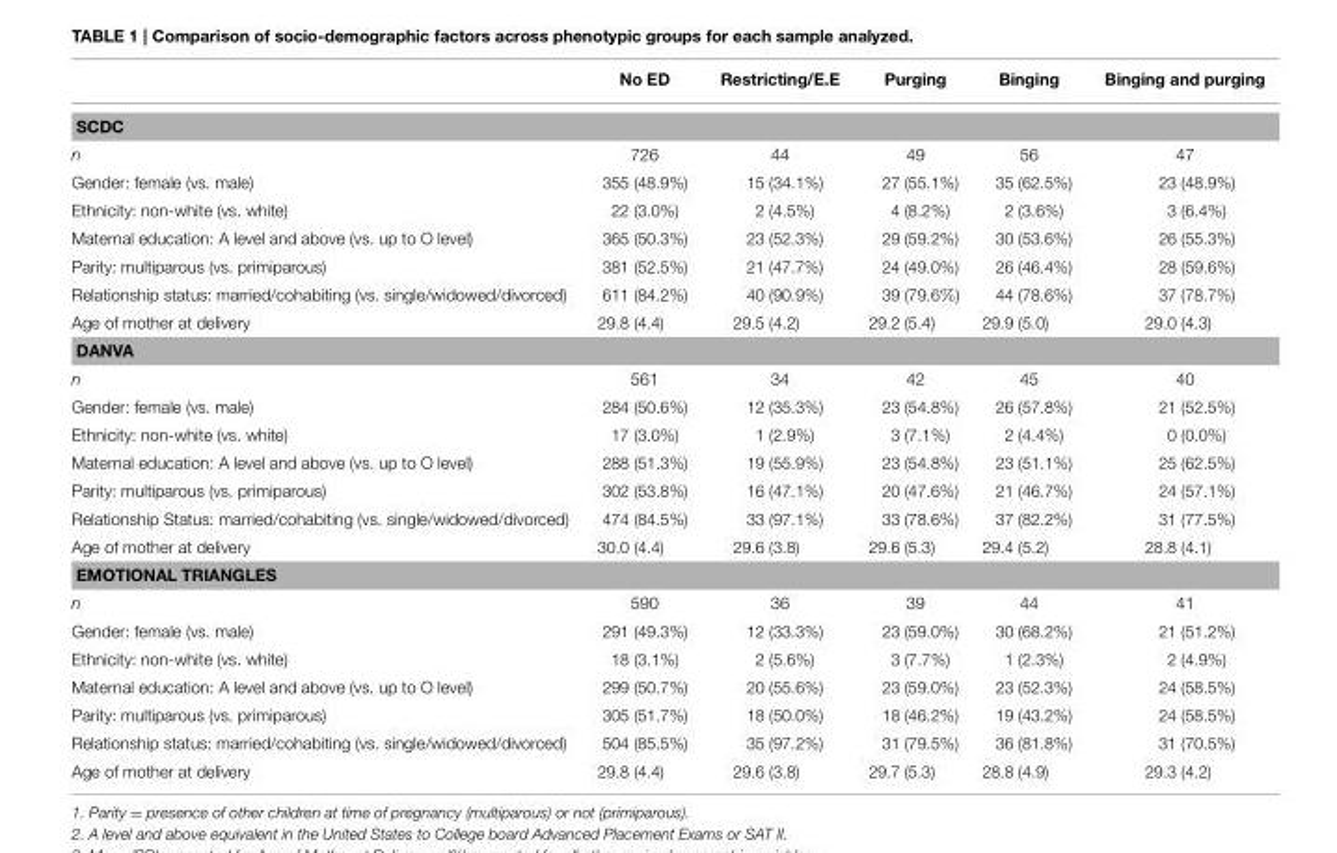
<table><thead><tr><td></td><td>No ED</td><td>Restricting/E.E</td><td>Purging</td><td>Binging</td><td>Binging and purging</td></tr></thead><tbody><tr><td colspan="6">SCDC</td></tr><tr><td>n</td><td>726</td><td>44</td><td>49</td><td>56</td><td>47</td></tr><tr><td>Gender: female (vs. male)</td><td>355 (48.9%)</td><td>15 (34.1%)</td><td>27 (55.1%)</td><td>35 (62.5%)</td><td>23 (48.9%)</td></tr><tr><td>Ethnicity: non-white (vs. white)</td><td>22 (3.0%)</td><td>2 (4.5%)</td><td>4 (8.2%)</td><td>2 (3.6%)</td><td>3 (6.4%)</td></tr><tr><td>Maternal education: A level and above (vs. up to O level)</td><td>365 (50.3%)</td><td>23 (52.3%)</td><td>29 (59.2%)</td><td>30 (53.6%)</td><td>26 (55.3%)</td></tr><tr><td>Parity: multiparous (vs. primiparous)</td><td>381 (52.5%)</td><td>21 (47.7%)</td><td>24 (49.0%)</td><td>26 (46.4%)</td><td>28 (59.6%)</td></tr><tr><td>Relationship status: married/cohabiting (vs. single/widowed/divorced)</td><td>611 (84.2%)</td><td>40 (90.9%)</td><td>39 (79.6%)</td><td>44 (78.6%)</td><td>37 (78.7%)</td></tr><tr><td>Age of mother at delivery</td><td>29.8 (4.4)</td><td>29.5 (4.2)</td><td>29.2 (5.4)</td><td>29.9 (5.0)</td><td>29.0 (4.3)</td></tr><tr><td colspan="6">DANVA</td></tr><tr><td>n</td><td>561</td><td>34</td><td>42</td><td>45</td><td>40</td></tr><tr><td>Gender: female (vs. male)</td><td>284 (50.6%)</td><td>12 (35.3%)</td><td>23 (54.8%)</td><td>26 (57.8%)</td><td>21 (52.5%)</td></tr><tr><td>Ethnicity: non-white (vs. white)</td><td>17 (3.0%)</td><td>1 (2.9%)</td><td>3 (7.1%)</td><td>2 (4.4%)</td><td>0 (0.0%)</td></tr><tr><td>Maternal education: A level and above (vs. up to O level)</td><td>288 (51.3%)</td><td>19 (55.9%)</td><td>23 (54.8%)</td><td>23 (51.1%)</td><td>25 (62.5%)</td></tr><tr><td>Parity: multiparous (vs. primiparous)</td><td>302 (53.8%)</td><td>16 (47.1%)</td><td>20 (47.6%)</td><td>21 (46.7%)</td><td>24 (57.1%)</td></tr><tr><td>Relationship Status: married/cohabiting (vs. single/widowed/divorced)</td><td>474 (84.5%)</td><td>33 (97.1%)</td><td>33 (78.6%)</td><td>37 (82.2%)</td><td>31 (77.5%)</td></tr><tr><td>Age of mother at delivery</td><td>30.0 (4.4)</td><td>29.6 (3.8)</td><td>29.6 (5.3)</td><td>29.4 (5.2)</td><td>28.8 (4.1)</td></tr><tr><td colspan="6">EMOTIONAL TRIANGLES</td></tr><tr><td>n</td><td>590</td><td>36</td><td>39</td><td>44</td><td>41</td></tr><tr><td>Gender: female (vs. male)</td><td>291 (49.3%)</td><td>12 (33.3%)</td><td>23 (59.0%)</td><td>30 (68.2%)</td><td>21 (51.2%)</td></tr><tr><td>Ethnicity: non-white (vs. white)</td><td>18 (3.1%)</td><td>2 (5.6%)</td><td>3 (7.7%)</td><td>1 (2.3%)</td><td>2 (4.9%)</td></tr><tr><td>Maternal education: A level and above (vs. up to O level)</td><td>299 (50.7%)</td><td>20 (55.6%)</td><td>23 (59.0%)</td><td>23 (52.3%)</td><td>24 (58.5%)</td></tr><tr><td>Parity: multiparous (vs. primiparous)</td><td>305 (51.7%)</td><td>18 (50.0%)</td><td>18 (46.2%)</td><td>19 (43.2%)</td><td>24 (58.5%)</td></tr><tr><td>Relationship status: married/cohabiting (vs. single/widowed/divorced)</td><td>504 (85.5%)</td><td>35 (97.2%)</td><td>31 (79.5%)</td><td>36 (81.8%)</td><td>31 (70.5%)</td></tr><tr><td>Age of mother at delivery</td><td>29.8 (4.4)</td><td>29.6 (3.8)</td><td>29.7 (5.3)</td><td>28.8 (4.9)</td><td>29.3 (4.2)</td></tr></tbody></table>